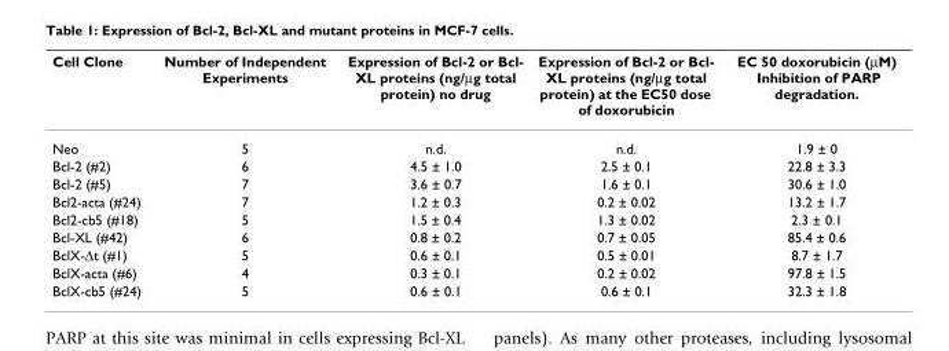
<table><thead><tr><td>Cell Clone</td><td>Number of Independent Experiments</td><td>Expression of Bcl-2 or Bcl- XL proteins (ng/μg total protein) no drug</td><td>Expression of Bcl-2 or Bcl- XL proteins (ng/μg total protein) at the EC50 dose of doxorubicin</td><td>EC 50 doxorubicin (μM) Inhibition of PARP degradation.</td></tr></thead><tbody><tr><td>Neo</td><td>5</td><td>n.d.</td><td>n.d.</td><td>1.9 ± 0</td></tr><tr><td>Bcl-2 (#2)</td><td>6</td><td>4.5 ± 1.0</td><td>2.5 ± 0.1</td><td>22.8 ± 3.3</td></tr><tr><td>Bcl-2 (#5)</td><td>7</td><td>3.6 ± 0.7</td><td>1.6 ± 0.1</td><td>30.6 ± 1.0</td></tr><tr><td>Bcl2-acta (#24)</td><td>7</td><td>1.2 ± 0.3</td><td>0.2 ± 0.02</td><td>13.2 ± 1.7</td></tr><tr><td>Bcl2-cb5 (#18)</td><td>5</td><td>1.5 ± 0.4</td><td>1.3 ± 0.02</td><td>2.3 ± 0.1</td></tr><tr><td>Bcl-XL (#42)</td><td>6</td><td>0.8 ± 0.2</td><td>0.7 ± 0.05</td><td>85.4 ± 0.6</td></tr><tr><td>BclX-Δt (#1)</td><td>5</td><td>0.6 ± 0.1</td><td>0.5 ± 0.01</td><td>8.7 ± 1.7</td></tr><tr><td>BclX-acta (#6)</td><td>4</td><td>0.3 ± 0.1</td><td>0.2 ± 0.02</td><td>97.8 ± 1.5</td></tr><tr><td>BclX-cb5 (#24)</td><td>5</td><td>0.6 ± 0.1</td><td>0.6 ± 0.1</td><td>32.3 ± 1.8</td></tr></tbody></table>